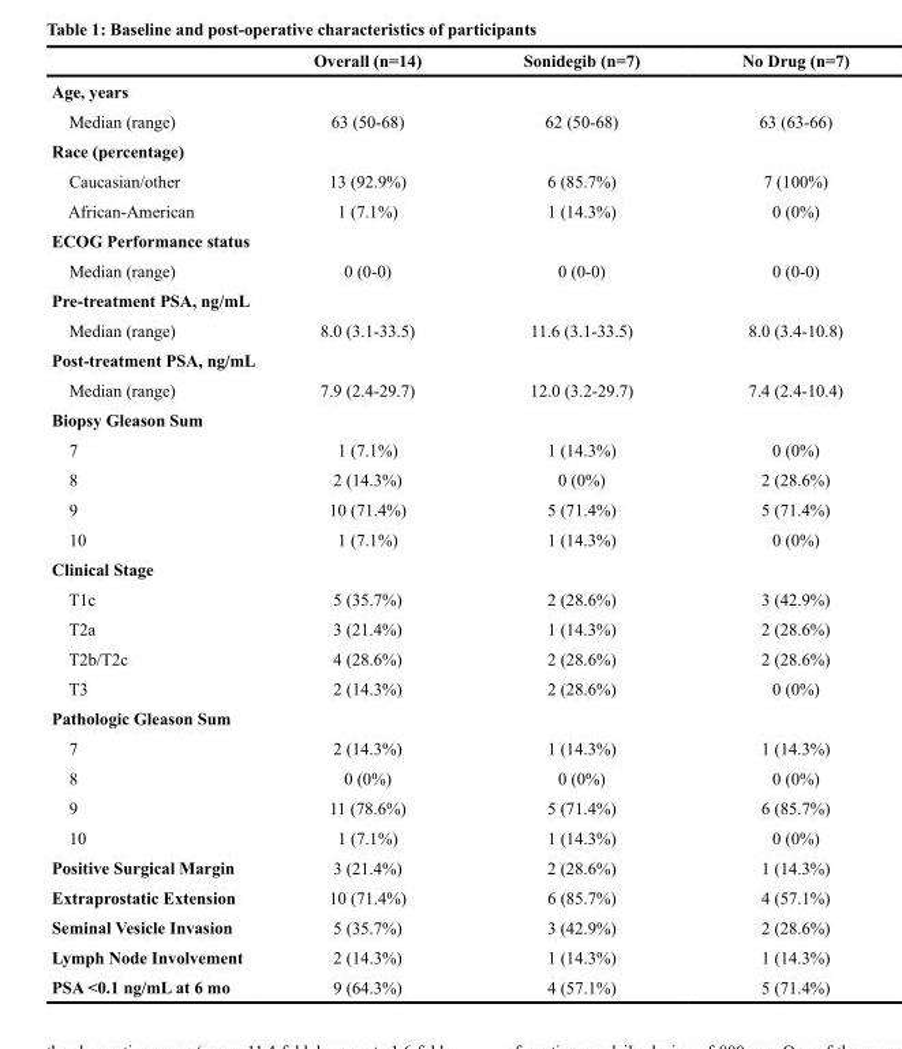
<table><thead><tr><td></td><td>Overall (n=14)</td><td>Sonidegib (n=7)</td><td>No Drug (n=7)</td></tr></thead><tbody><tr><td colspan="4">Age, years</td></tr><tr><td>Median (range)</td><td>63 (50-68)</td><td>62 (50-68)</td><td>63 (63-66)</td></tr><tr><td colspan="4">Race (percentage)</td></tr><tr><td>Caucasian/other</td><td>13 (92.9%)</td><td>6 (85.7%)</td><td>7 (100%)</td></tr><tr><td>African-American</td><td>1 (7.1%)</td><td>1 (14.3%)</td><td>0 (0%)</td></tr><tr><td colspan="4">ECOG Performance status</td></tr><tr><td>Median (range)</td><td>0 (0-0)</td><td>0 (0-0)</td><td>0 (0-0)</td></tr><tr><td colspan="4">Pre-treatment PSA, ng/mL</td></tr><tr><td>Median (range)</td><td>8.0 (3.1-33.5)</td><td>11.6 (3.1-33.5)</td><td>8.0 (3.4-10.8)</td></tr><tr><td colspan="4">Post-treatment PSA, ng/mL</td></tr><tr><td>Median (range)</td><td>7.9 (2.4-29.7)</td><td>12.0 (3.2-29.7)</td><td>7.4 (2.4-10.4)</td></tr><tr><td colspan="4">Biopsy Gleason Sum</td></tr><tr><td>7</td><td>1 (7.1%)</td><td>1 (14.3%)</td><td>0 (0%)</td></tr><tr><td>8</td><td>2 (14.3%)</td><td>0 (0%)</td><td>2 (28.6%)</td></tr><tr><td>9</td><td>10 (71.4%)</td><td>5 (71.4%)</td><td>5 (71.4%)</td></tr><tr><td>10</td><td>1 (7.1%)</td><td>1 (14.3%)</td><td>0 (0%)</td></tr><tr><td colspan="4">Clinical Stage</td></tr><tr><td>T1c</td><td>5 (35.7%)</td><td>2 (28.6%)</td><td>3 (42.9%)</td></tr><tr><td>T2a</td><td>3 (21.4%)</td><td>1 (14.3%)</td><td>2 (28.6%)</td></tr><tr><td>T2b/T2c</td><td>4 (28.6%)</td><td>2 (28.6%)</td><td>2 (28.6%)</td></tr><tr><td>T3</td><td>2 (14.3%)</td><td>2 (28.6%)</td><td>0 (0%)</td></tr><tr><td colspan="4">Pathologic Gleason Sum</td></tr><tr><td>7</td><td>2 (14.3%)</td><td>1 (14.3%)</td><td>1 (14.3%)</td></tr><tr><td>8</td><td>0 (0%)</td><td>0 (0%)</td><td>0 (0%)</td></tr><tr><td>9</td><td>11 (78.6%)</td><td>5 (71.4%)</td><td>6 (85.7%)</td></tr><tr><td>10</td><td>1 (7.1%)</td><td>1 (14.3%)</td><td>0 (0%)</td></tr><tr><td>Positive Surgical Margin</td><td>3 (21.4%)</td><td>2 (28.6%)</td><td>1 (14.3%)</td></tr><tr><td>Extraprostatic Extension</td><td>10 (71.4%)</td><td>6 (85.7%)</td><td>4 (57.1%)</td></tr><tr><td>Seminal Vesicle Invasion</td><td>5 (35.7%)</td><td>3 (42.9%)</td><td>2 (28.6%)</td></tr><tr><td>Lymph Node Involvement</td><td>2 (14.3%)</td><td>1 (14.3%)</td><td>1 (14.3%)</td></tr><tr><td>PSA &lt;0.1 ng/mL at 6 mo</td><td>9 (64.3%)</td><td>4 (57.1%)</td><td>5 (71.4%)</td></tr></tbody></table>